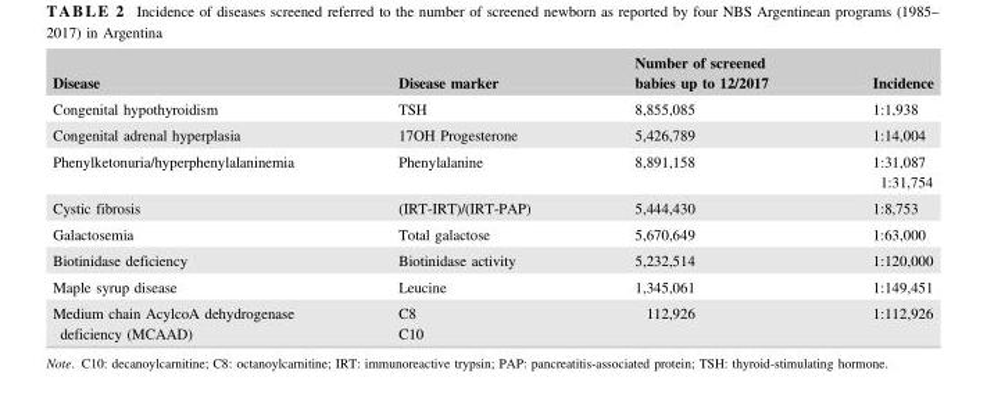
<table><thead><tr><td>Disease</td><td>Disease marker</td><td>Number of screened babies up to 12/2017</td><td>Incidence</td></tr></thead><tbody><tr><td>Congenital hypothyroidism</td><td>TSH</td><td>8,855,085</td><td>1:1,938</td></tr><tr><td>Congenital adrenal hyperplasia</td><td>17OH Progesterone</td><td>5,426,789</td><td>1:14,004</td></tr><tr><td>Phenylketonuria/hyperphenylalaninemia</td><td>Phenylalanine</td><td>8,891,158</td><td>1:31,087 1:31,754</td></tr><tr><td>Cystic fibrosis</td><td>(IRT‐IRT)/(IRT‐PAP)</td><td>5,444,430</td><td>1:8,753</td></tr><tr><td>Galactosemia</td><td>Total galactose</td><td>5,670,649</td><td>1:63,000</td></tr><tr><td>Biotinidase deficiency</td><td>Biotinidase activity</td><td>5,232,514</td><td>1:120,000</td></tr><tr><td>Maple syrup disease</td><td>Leucine</td><td>1,345,061</td><td>1:149,451</td></tr><tr><td>Medium chain AcylcoA dehydrogenase deficiency (MCAAD)</td><td>C8 C10</td><td>112,926</td><td>1:112,926</td></tr></tbody></table>